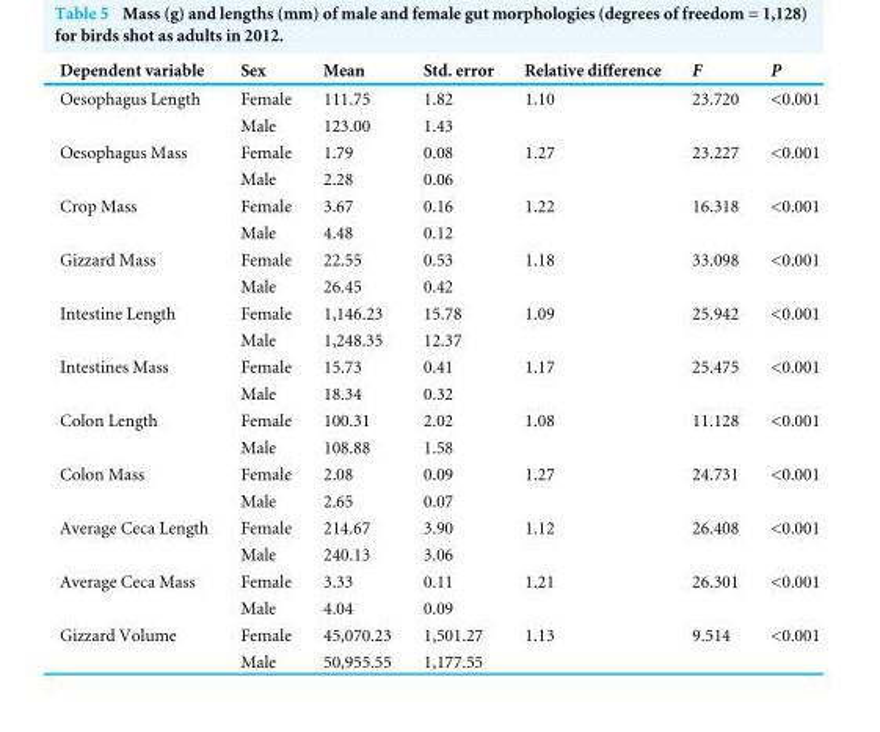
<table><thead><tr><td>Dependent variable</td><td>Sex</td><td>Mean</td><td>Std. error</td><td>Relative difference</td><td>F</td><td>P</td></tr></thead><tbody><tr><td rowspan="2">Oesophagus Length</td><td>Female</td><td>111.75</td><td>1.82</td><td>1.10</td><td>23.720</td><td>&lt;0.001</td></tr><tr><td>Male</td><td>123.00</td><td>1.43</td><td></td><td></td><td></td></tr><tr><td rowspan="2">Oesophagus Mass</td><td>Female</td><td>1.79</td><td>0.08</td><td>1.27</td><td>23.227</td><td>&lt;0.001</td></tr><tr><td>Male</td><td>2.28</td><td>0.06</td><td></td><td></td><td></td></tr><tr><td rowspan="2">Crop Mass</td><td>Female</td><td>3.67</td><td>0.16</td><td>1.22</td><td>16.318</td><td>&lt;0.001</td></tr><tr><td>Male</td><td>4.48</td><td>0.12</td><td></td><td></td><td></td></tr><tr><td rowspan="2">Gizzard Mass</td><td>Female</td><td>22.55</td><td>0.53</td><td>1.18</td><td>33.098</td><td>&lt;0.001</td></tr><tr><td>Male</td><td>26.45</td><td>0.42</td><td></td><td></td><td></td></tr><tr><td rowspan="2">Intestine Length</td><td>Female</td><td>1,146.23</td><td>15.78</td><td>1.09</td><td>25.942</td><td>&lt;0.001</td></tr><tr><td>Male</td><td>1,248.35</td><td>12.37</td><td></td><td></td><td></td></tr><tr><td rowspan="2">Intestines Mass</td><td>Female</td><td>15.73</td><td>0.41</td><td>1.17</td><td>25.475</td><td>&lt;0.001</td></tr><tr><td>Male</td><td>18.34</td><td>0.32</td><td></td><td></td><td></td></tr><tr><td rowspan="2">Colon Length</td><td>Female</td><td>100.31</td><td>2.02</td><td>1.08</td><td>11.128</td><td>&lt;0.001</td></tr><tr><td>Male</td><td>108.88</td><td>1.58</td><td></td><td></td><td></td></tr><tr><td rowspan="2">Colon Mass</td><td>Female</td><td>2.08</td><td>0.09</td><td>1.27</td><td>24.731</td><td>&lt;0.001</td></tr><tr><td>Male</td><td>2.65</td><td>0.07</td><td></td><td></td><td></td></tr><tr><td rowspan="2">Average Ceca Length</td><td>Female</td><td>214.67</td><td>3.90</td><td>1.12</td><td>26.408</td><td>&lt;0.001</td></tr><tr><td>Male</td><td>240.13</td><td>3.06</td><td></td><td></td><td></td></tr><tr><td rowspan="2">Average Ceca Mass</td><td>Female</td><td>3.33</td><td>0.11</td><td>1.21</td><td>26.301</td><td>&lt;0.001</td></tr><tr><td>Male</td><td>4.04</td><td>0.09</td><td></td><td></td><td></td></tr><tr><td rowspan="2">Gizzard Volume</td><td>Female</td><td>45,070.23</td><td>1,501.27</td><td>1.13</td><td>9.514</td><td>&lt;0.001</td></tr><tr><td>Male</td><td>50,955.55</td><td>1,177.55</td><td></td><td></td><td></td></tr></tbody></table>